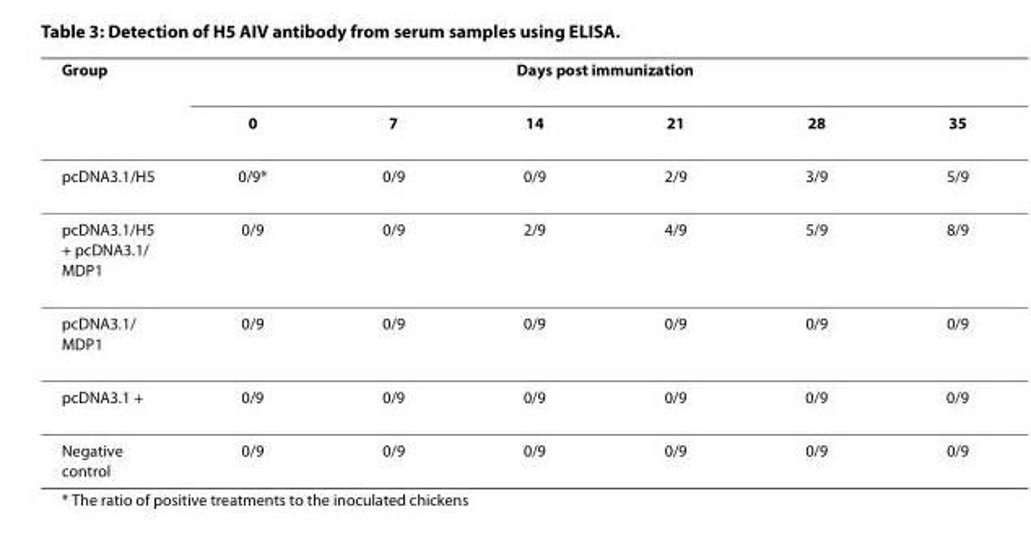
<table><thead><tr><td rowspan="2">Group</td><td colspan="6">Days post immunization</td></tr><tr><td>0</td><td>7</td><td>14</td><td>21</td><td>28</td><td>35</td></tr></thead><tbody><tr><td>pcDNA3.1/H5</td><td>0/9*</td><td>0/9</td><td>0/9</td><td>2/9</td><td>3/9</td><td>5/9</td></tr><tr><td>pcDNA3.1/H5 + pcDNA3.1/ MDP1</td><td>0/9</td><td>0/9</td><td>2/9</td><td>4/9</td><td>5/9</td><td>8/9</td></tr><tr><td>pcDNA3.1/ MDP1</td><td>0/9</td><td>0/9</td><td>0/9</td><td>0/9</td><td>0/9</td><td>0/9</td></tr><tr><td>pcDNA3.1 +</td><td>0/9</td><td>0/9</td><td>0/9</td><td>0/9</td><td>0/9</td><td>0/9</td></tr><tr><td>Negative control</td><td>0/9</td><td>0/9</td><td>0/9</td><td>0/9</td><td>0/9</td><td>0/9</td></tr></tbody></table>